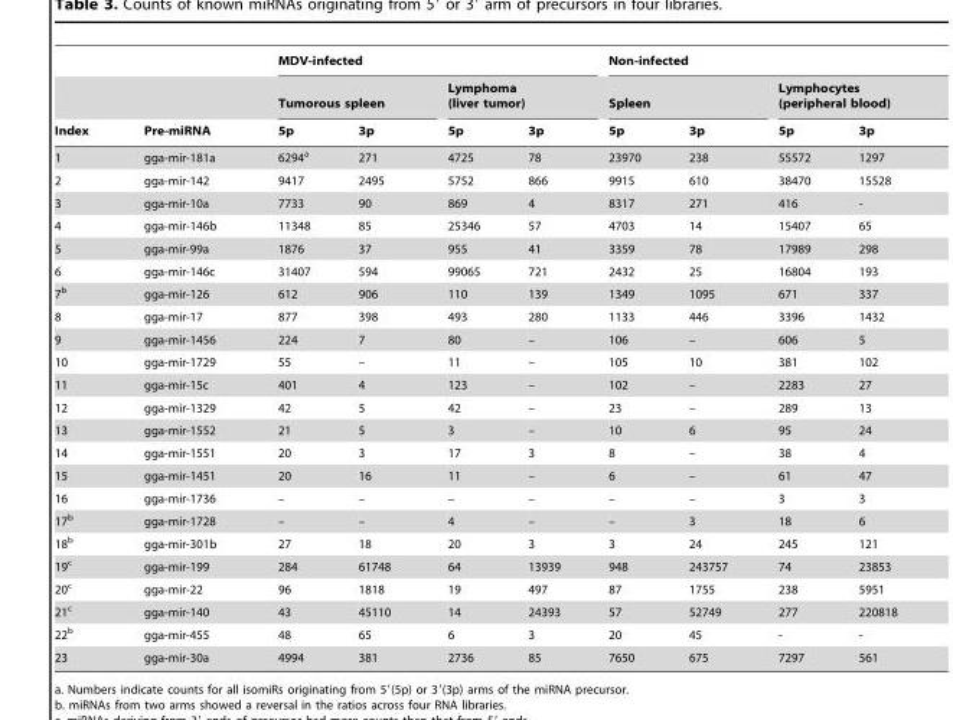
<table><thead><tr><td rowspan="3">Index</td><td rowspan="3">Pre-miRNA</td><td colspan="4">MDV-infected</td><td colspan="4">Non-infected</td></tr><tr><td colspan="2">Tumorous spleen</td><td colspan="2">Lymphoma (liver tumor)</td><td colspan="2">Spleen</td><td colspan="2">Lymphocytes (peripheral blood)</td></tr><tr><td>5p</td><td>3p</td><td>5p</td><td>3p</td><td>5p</td><td>3p</td><td>5p</td><td>3p</td></tr></thead><tbody><tr><td>1</td><td>gga-mir-181a</td><td>6294<sup>a</sup></td><td>271</td><td>4725</td><td>78</td><td>23970</td><td>238</td><td>55572</td><td>1297</td></tr><tr><td>2</td><td>gga-mir-142</td><td>9417</td><td>2495</td><td>5752</td><td>866</td><td>9915</td><td>610</td><td>38470</td><td>15528</td></tr><tr><td>3</td><td>gga-mir-10a</td><td>7733</td><td>90</td><td>869</td><td>4</td><td>8317</td><td>271</td><td>416</td><td>-</td></tr><tr><td>4</td><td>gga-mir-146b</td><td>11348</td><td>85</td><td>25346</td><td>57</td><td>4703</td><td>14</td><td>15407</td><td>65</td></tr><tr><td>5</td><td>gga-mir-99a</td><td>1876</td><td>37</td><td>955</td><td>41</td><td>3359</td><td>78</td><td>17989</td><td>298</td></tr><tr><td>6</td><td>gga-mir-146c</td><td>31407</td><td>594</td><td>99065</td><td>721</td><td>2432</td><td>25</td><td>16804</td><td>193</td></tr><tr><td>7<sup>b</sup></td><td>gga-mir-126</td><td>612</td><td>906</td><td>110</td><td>139</td><td>1349</td><td>1095</td><td>671</td><td>337</td></tr><tr><td>8</td><td>gga-mir-17</td><td>877</td><td>398</td><td>493</td><td>280</td><td>1133</td><td>446</td><td>3396</td><td>1432</td></tr><tr><td>9</td><td>gga-mir-1456</td><td>224</td><td>7</td><td>80</td><td>–</td><td>106</td><td>–</td><td>606</td><td>5</td></tr><tr><td>10</td><td>gga-mir-1729</td><td>55</td><td>–</td><td>11</td><td>–</td><td>105</td><td>10</td><td>381</td><td>102</td></tr><tr><td>11</td><td>gga-mir-15c</td><td>401</td><td>4</td><td>123</td><td>–</td><td>102</td><td>–</td><td>2283</td><td>27</td></tr><tr><td>12</td><td>gga-mir-1329</td><td>42</td><td>5</td><td>42</td><td>–</td><td>23</td><td>–</td><td>289</td><td>13</td></tr><tr><td>13</td><td>gga-mir-1552</td><td>21</td><td>5</td><td>3</td><td>–</td><td>10</td><td>6</td><td>95</td><td>24</td></tr><tr><td>14</td><td>gga-mir-1551</td><td>20</td><td>3</td><td>17</td><td>3</td><td>8</td><td>–</td><td>38</td><td>4</td></tr><tr><td>15</td><td>gga-mir-1451</td><td>20</td><td>16</td><td>11</td><td>–</td><td>6</td><td>–</td><td>61</td><td>47</td></tr><tr><td>16</td><td>gga-mir-1736</td><td>–</td><td>–</td><td>–</td><td>–</td><td>–</td><td>–</td><td>3</td><td>3</td></tr><tr><td>17<sup>b</sup></td><td>gga-mir-1728</td><td>–</td><td>–</td><td>4</td><td>–</td><td>–</td><td>3</td><td>18</td><td>6</td></tr><tr><td>18<sup>b</sup></td><td>gga-mir-301b</td><td>27</td><td>18</td><td>20</td><td>3</td><td>3</td><td>24</td><td>245</td><td>121</td></tr><tr><td>19<sup>c</sup></td><td>gga-mir-199</td><td>284</td><td>61748</td><td>64</td><td>13939</td><td>948</td><td>243757</td><td>74</td><td>23853</td></tr><tr><td>20<sup>c</sup></td><td>gga-mir-22</td><td>96</td><td>1818</td><td>19</td><td>497</td><td>87</td><td>1755</td><td>238</td><td>5951</td></tr><tr><td>21<sup>c</sup></td><td>gga-mir-140</td><td>43</td><td>45110</td><td>14</td><td>24393</td><td>57</td><td>52749</td><td>277</td><td>220818</td></tr><tr><td>22<sup>b</sup></td><td>gga-mir-455</td><td>48</td><td>65</td><td>6</td><td>3</td><td>20</td><td>45</td><td>-</td><td>-</td></tr><tr><td>23</td><td>gga-mir-30a</td><td>4994</td><td>381</td><td>2736</td><td>85</td><td>7650</td><td>675</td><td>7297</td><td>561</td></tr></tbody></table>